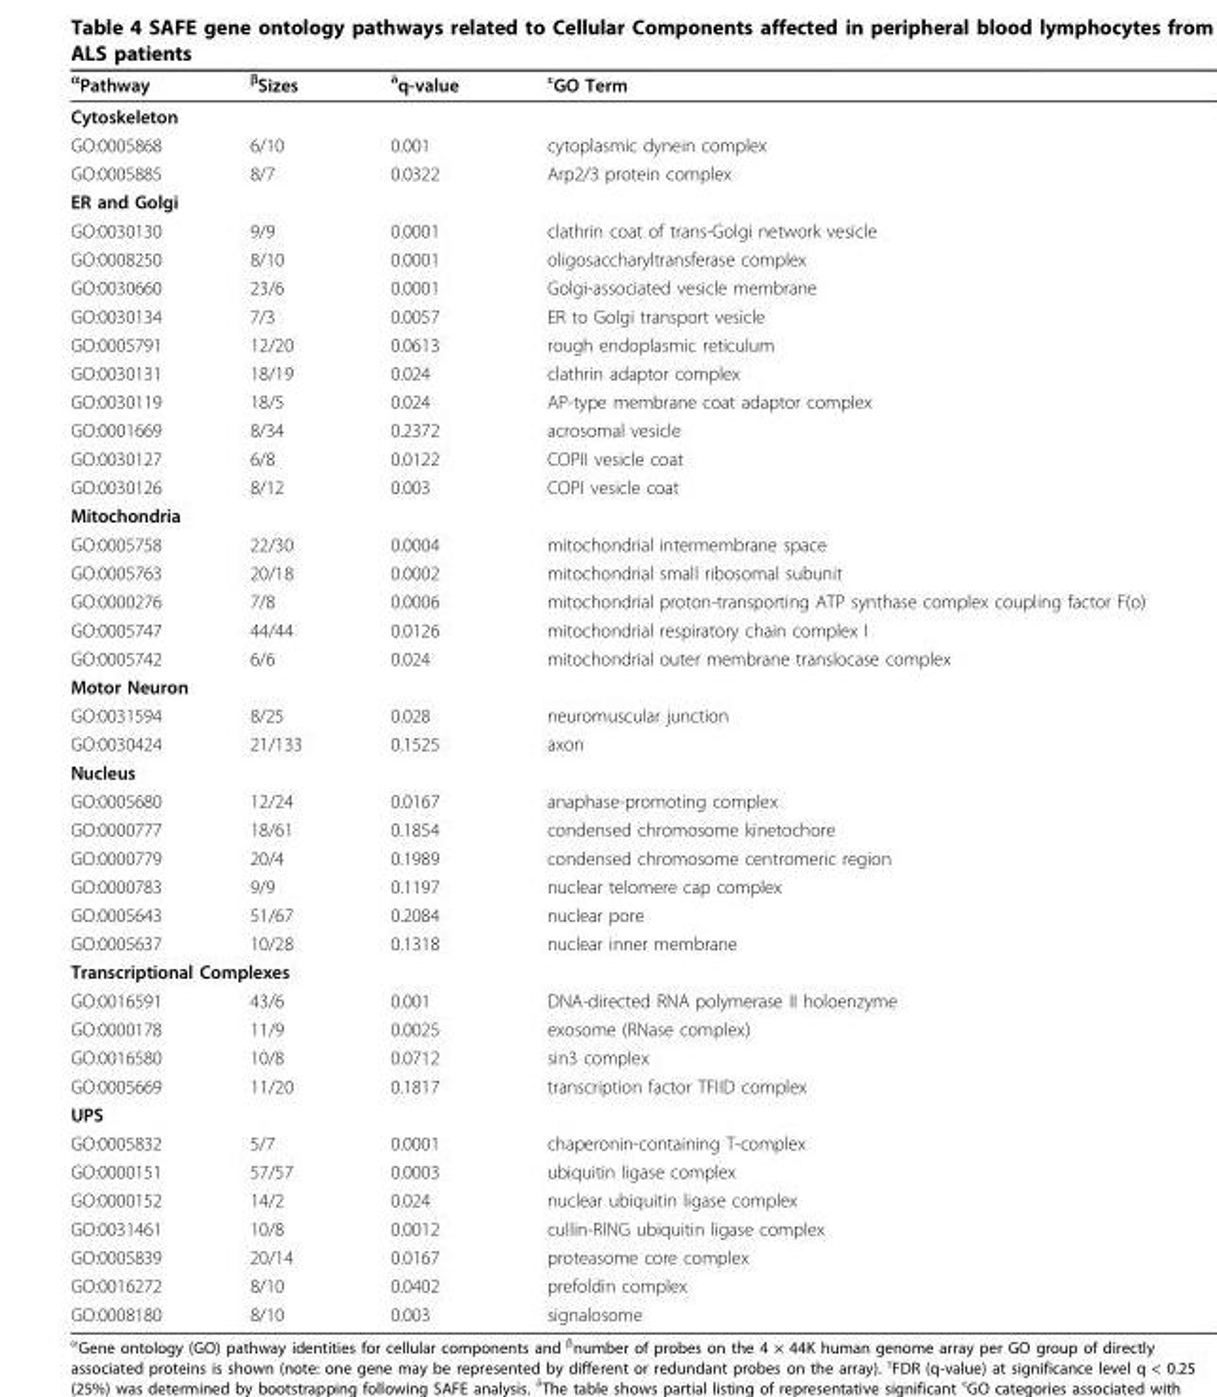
<table><thead><tr><td><sup>α</sup>Pathway</td><td><sup>β</sup>Sizes</td><td><sup>δ</sup>q-value</td><td><sup>ε</sup>GO Term</td></tr></thead><tbody><tr><td colspan="4">Cytoskeleton</td></tr><tr><td>GO:0005868</td><td>6/10</td><td>0.001</td><td>cytoplasmic dynein complex</td></tr><tr><td>GO:0005885</td><td>8/7</td><td>0.0322</td><td>Arp2/3 protein complex</td></tr><tr><td colspan="4">ER and Golgi</td></tr><tr><td>GO:0030130</td><td>9/9</td><td>0.0001</td><td>clathrin coat of trans-Golgi network vesicle</td></tr><tr><td>GO:0008250</td><td>8/10</td><td>0.0001</td><td>oligosaccharyltransferase complex</td></tr><tr><td>GO:0030660</td><td>23/6</td><td>0.0001</td><td>Golgi-associated vesicle membrane</td></tr><tr><td>GO:0030134</td><td>7/3</td><td>0.0057</td><td>ER to Golgi transport vesicle</td></tr><tr><td>GO:0005791</td><td>12/20</td><td>0.0613</td><td>rough endoplasmic reticulum</td></tr><tr><td>GO:0030131</td><td>18/19</td><td>0.024</td><td>clathrin adaptor complex</td></tr><tr><td>GO:0030119</td><td>18/5</td><td>0.024</td><td>AP-type membrane coat adaptor complex</td></tr><tr><td>GO:0001669</td><td>8/34</td><td>0.2372</td><td>acrosomal vesicle</td></tr><tr><td>GO:0030127</td><td>6/8</td><td>0.0122</td><td>COPII vesicle coat</td></tr><tr><td>GO:0030126</td><td>8/12</td><td>0.003</td><td>COPI vesicle coat</td></tr><tr><td colspan="4">Mitochondria</td></tr><tr><td>GO:0005758</td><td>22/30</td><td>0.0004</td><td>mitochondrial intermembrane space</td></tr><tr><td>GO:0005763</td><td>20/18</td><td>0.0002</td><td>mitochondrial small ribosomal subunit</td></tr><tr><td>GO:0000276</td><td>7/8</td><td>0.0006</td><td>mitochondrial proton-transporting ATP synthase complex coupling factor F(o)</td></tr><tr><td>GO:0005747</td><td>44/44</td><td>0.0126</td><td>mitochondrial respiratory chain complex I</td></tr><tr><td>GO:0005742</td><td>6/6</td><td>0.024</td><td>mitochondrial outer membrane translocase complex</td></tr><tr><td colspan="4">Motor Neuron</td></tr><tr><td>GO:0031594</td><td>8/25</td><td>0.028</td><td>neuromuscular junction</td></tr><tr><td>GO:0030424</td><td>21/133</td><td>0.1525</td><td>axon</td></tr><tr><td colspan="4">Nucleus</td></tr><tr><td>GO:0005680</td><td>12/24</td><td>0.0167</td><td>anaphase-promoting complex</td></tr><tr><td>GO:0000777</td><td>18/61</td><td>0.1854</td><td>condensed chromosome kinetochore</td></tr><tr><td>GO:0000779</td><td>20/4</td><td>0.1989</td><td>condensed chromosome centromeric region</td></tr><tr><td>GO:0000783</td><td>9/9</td><td>0.1197</td><td>nuclear telomere cap complex</td></tr><tr><td>GO:0005643</td><td>51/67</td><td>0.2084</td><td>nuclear pore</td></tr><tr><td>GO:0005637</td><td>10/28</td><td>0.1318</td><td>nuclear inner membrane</td></tr><tr><td colspan="4">Transcriptional Complexes</td></tr><tr><td>GO:0016591</td><td>43/6</td><td>0.001</td><td>DNA-directed RNA polymerase II holoenzyme</td></tr><tr><td>GO:0000178</td><td>11/9</td><td>0.0025</td><td>exosome (RNase complex)</td></tr><tr><td>GO:0016580</td><td>10/8</td><td>0.0712</td><td>sin3 complex</td></tr><tr><td>GO:0005669</td><td>11/20</td><td>0.1817</td><td>transcription factor TFIID complex</td></tr><tr><td colspan="4">UPS</td></tr><tr><td>GO:0005832</td><td>5/7</td><td>0.0001</td><td>chaperonin-containing T-complex</td></tr><tr><td>GO:0000151</td><td>57/57</td><td>0.0003</td><td>ubiquitin ligase complex</td></tr><tr><td>GO:0000152</td><td>14/2</td><td>0.024</td><td>nuclear ubiquitin ligase complex</td></tr><tr><td>GO:0031461</td><td>10/8</td><td>0.0012</td><td>cullin-RING ubiquitin ligase complex</td></tr><tr><td>GO:0005839</td><td>20/14</td><td>0.0167</td><td>proteasome core complex</td></tr><tr><td>GO:0016272</td><td>8/10</td><td>0.0402</td><td>prefoldin complex</td></tr><tr><td>GO:0008180</td><td>8/10</td><td>0.003</td><td>signalosome</td></tr></tbody></table>